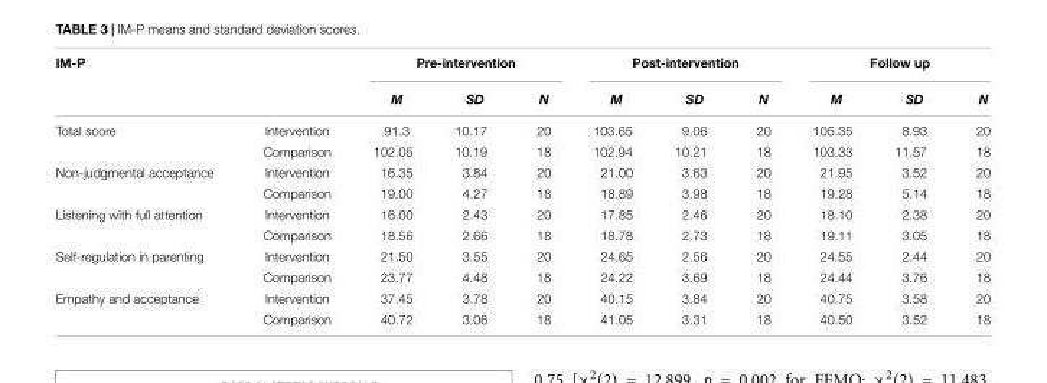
<table><thead><tr><td colspan="2">IM-P</td><td colspan="3">Pre-intervention</td><td colspan="3">Post-intervention</td><td colspan="3">Follow up</td></tr><tr><td></td><td></td><td>M</td><td>SD</td><td>N</td><td>M</td><td>SD</td><td>N</td><td>M</td><td>SD</td><td>N</td></tr></thead><tbody><tr><td rowspan="2">Total score</td><td>Intervention</td><td>91.3</td><td>10.17</td><td>20</td><td>103.65</td><td>9.06</td><td>20</td><td>105.35</td><td>8.93</td><td>20</td></tr><tr><td>Comparison</td><td>102.05</td><td>10.19</td><td>18</td><td>102.94</td><td>10.21</td><td>18</td><td>103.33</td><td>11.57</td><td>18</td></tr><tr><td rowspan="2">Non-judgmental acceptance</td><td>Intervention</td><td>16.35</td><td>3.84</td><td>20</td><td>21.00</td><td>3.63</td><td>20</td><td>21.95</td><td>3.52</td><td>20</td></tr><tr><td>Comparison</td><td>19.00</td><td>4.27</td><td>18</td><td>18.89</td><td>3.98</td><td>18</td><td>19.28</td><td>5.14</td><td>18</td></tr><tr><td rowspan="2">Listening with full attention</td><td>Intervention</td><td>16.00</td><td>2.43</td><td>20</td><td>17.85</td><td>2.46</td><td>20</td><td>18.10</td><td>2.38</td><td>20</td></tr><tr><td>Comparison</td><td>18.56</td><td>2.66</td><td>18</td><td>18.78</td><td>2.73</td><td>18</td><td>19.11</td><td>3.05</td><td>18</td></tr><tr><td rowspan="2">Self-regulation in parenting</td><td>Intervention</td><td>21.50</td><td>3.55</td><td>20</td><td>24.65</td><td>2.56</td><td>20</td><td>24.55</td><td>2.44</td><td>20</td></tr><tr><td>Comparison</td><td>23.77</td><td>4.48</td><td>18</td><td>24.22</td><td>3.69</td><td>18</td><td>24.44</td><td>3.76</td><td>18</td></tr><tr><td rowspan="2">Empathy and acceptance</td><td>Intervention</td><td>37.45</td><td>3.78</td><td>20</td><td>40.15</td><td>3.84</td><td>20</td><td>40.75</td><td>3.58</td><td>20</td></tr><tr><td>Comparison</td><td>40.72</td><td>3.06</td><td>18</td><td>41.05</td><td>3.31</td><td>18</td><td>40.50</td><td>3.52</td><td>18</td></tr></tbody></table>